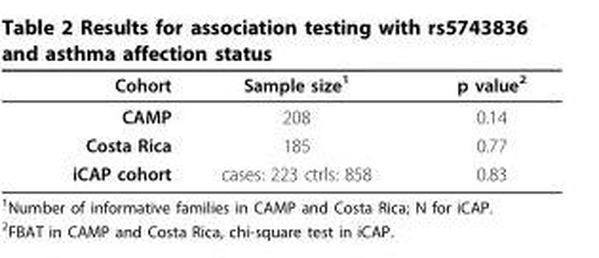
<table><thead><tr><td>Cohort</td><td>Sample size<sup>1</sup></td><td>p value<sup>2</sup></td></tr></thead><tbody><tr><td>CAMP</td><td>208</td><td>0.14</td></tr><tr><td>Costa Rica</td><td>185</td><td>0.77</td></tr><tr><td>iCAP cohort</td><td>cases: 223 ctrls: 858</td><td>0.83</td></tr></tbody></table>